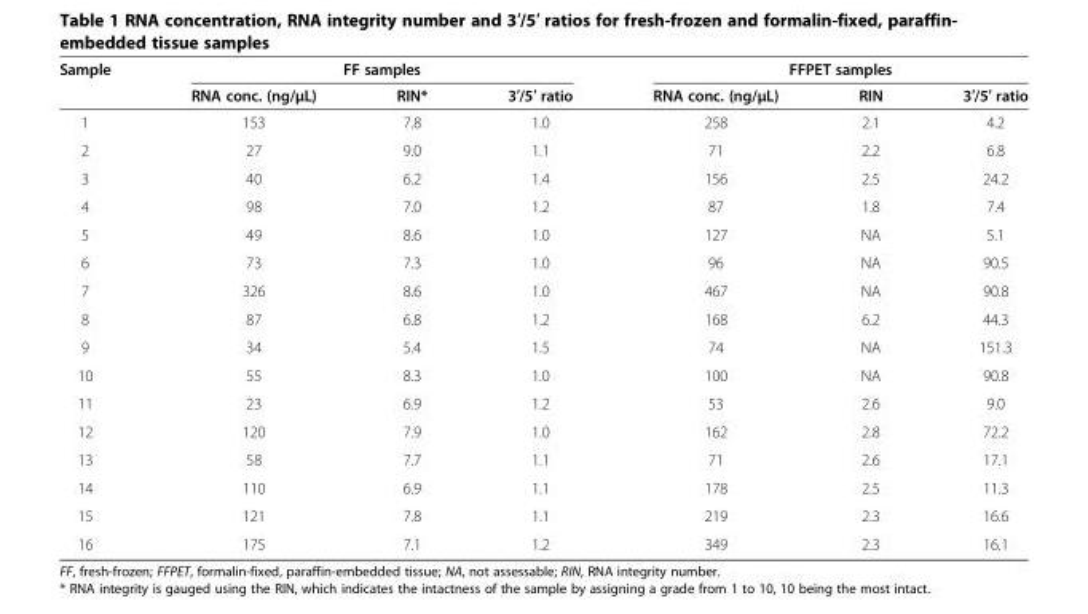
<table><thead><tr><td rowspan="2">Sample</td><td colspan="3">FF samples</td><td colspan="3">FFPET samples</td></tr><tr><td>RNA conc. (ng/μL)</td><td>RIN*</td><td>3′/5′ ratio</td><td>RNA conc. (ng/μL)</td><td>RIN</td><td>3′/5′ ratio</td></tr></thead><tbody><tr><td>1</td><td>153</td><td>7.8</td><td>1.0</td><td>258</td><td>2.1</td><td>4.2</td></tr><tr><td>2</td><td>27</td><td>9.0</td><td>1.1</td><td>71</td><td>2.2</td><td>6.8</td></tr><tr><td>3</td><td>40</td><td>6.2</td><td>1.4</td><td>156</td><td>2.5</td><td>24.2</td></tr><tr><td>4</td><td>98</td><td>7.0</td><td>1.2</td><td>87</td><td>1.8</td><td>7.4</td></tr><tr><td>5</td><td>49</td><td>8.6</td><td>1.0</td><td>127</td><td>NA</td><td>5.1</td></tr><tr><td>6</td><td>73</td><td>7.3</td><td>1.0</td><td>96</td><td>NA</td><td>90.5</td></tr><tr><td>7</td><td>326</td><td>8.6</td><td>1.0</td><td>467</td><td>NA</td><td>90.8</td></tr><tr><td>8</td><td>87</td><td>6.8</td><td>1.2</td><td>168</td><td>6.2</td><td>44.3</td></tr><tr><td>9</td><td>34</td><td>5.4</td><td>1.5</td><td>74</td><td>NA</td><td>151.3</td></tr><tr><td>10</td><td>55</td><td>8.3</td><td>1.0</td><td>100</td><td>NA</td><td>90.8</td></tr><tr><td>11</td><td>23</td><td>6.9</td><td>1.2</td><td>53</td><td>2.6</td><td>9.0</td></tr><tr><td>12</td><td>120</td><td>7.9</td><td>1.0</td><td>162</td><td>2.8</td><td>72.2</td></tr><tr><td>13</td><td>58</td><td>7.7</td><td>1.1</td><td>71</td><td>2.6</td><td>17.1</td></tr><tr><td>14</td><td>110</td><td>6.9</td><td>1.1</td><td>178</td><td>2.5</td><td>11.3</td></tr><tr><td>15</td><td>121</td><td>7.8</td><td>1.1</td><td>219</td><td>2.3</td><td>16.6</td></tr><tr><td>16</td><td>175</td><td>7.1</td><td>1.2</td><td>349</td><td>2.3</td><td>16.1</td></tr></tbody></table>